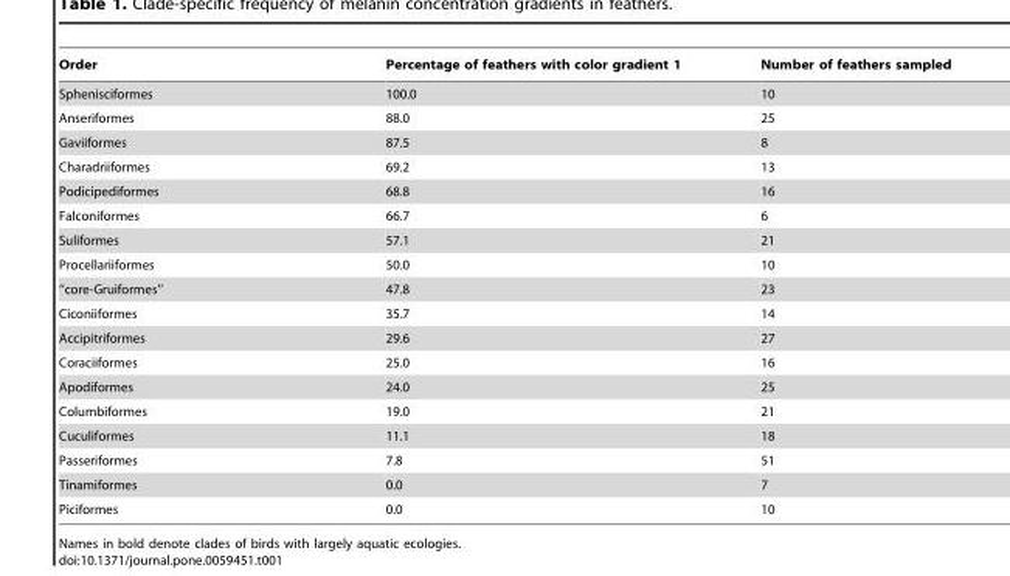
<table><thead><tr><td>Order</td><td>Percentage of feathers with color gradient 1</td><td>Number of feathers sampled</td></tr></thead><tbody><tr><td>Sphenisciformes</td><td>100.0</td><td>10</td></tr><tr><td>Anseriformes</td><td>88.0</td><td>25</td></tr><tr><td>Gaviiformes</td><td>87.5</td><td>8</td></tr><tr><td>Charadriiformes</td><td>69.2</td><td>13</td></tr><tr><td>Podicipediformes</td><td>68.8</td><td>16</td></tr><tr><td>Falconiformes</td><td>66.7</td><td>6</td></tr><tr><td>Suliformes</td><td>57.1</td><td>21</td></tr><tr><td>Procellariiformes</td><td>50.0</td><td>10</td></tr><tr><td>‘‘core-Gruiformes’’</td><td>47.8</td><td>23</td></tr><tr><td>Ciconiiformes</td><td>35.7</td><td>14</td></tr><tr><td>Accipitriformes</td><td>29.6</td><td>27</td></tr><tr><td>Coraciiformes</td><td>25.0</td><td>16</td></tr><tr><td>Apodiformes</td><td>24.0</td><td>25</td></tr><tr><td>Columbiformes</td><td>19.0</td><td>21</td></tr><tr><td>Cuculiformes</td><td>11.1</td><td>18</td></tr><tr><td>Passeriformes</td><td>7.8</td><td>51</td></tr><tr><td>Tinamiformes</td><td>0.0</td><td>7</td></tr><tr><td>Piciformes</td><td>0.0</td><td>10</td></tr></tbody></table>